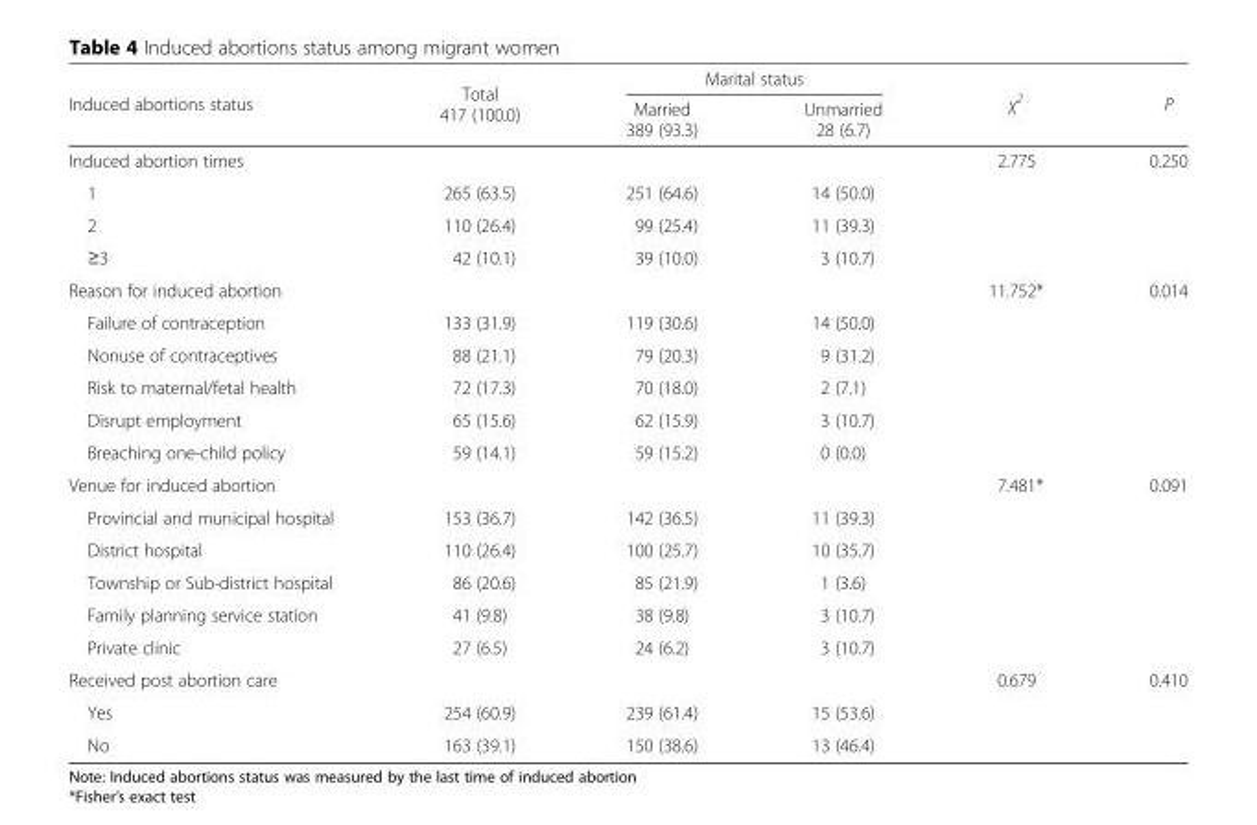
<table><thead><tr><td rowspan="2">Induced abortions status</td><td rowspan="2">Total 417 (100.0)</td><td colspan="2">Marital status</td><td rowspan="2">χ<sup>2</sup></td><td rowspan="2">P</td></tr><tr><td>Married 389 (93.3)</td><td>Unmarried 28 (6.7)</td></tr></thead><tbody><tr><td>Induced abortion times</td><td></td><td></td><td></td><td>2.775</td><td>0.250</td></tr><tr><td>1</td><td>265 (63.5)</td><td>251 (64.6)</td><td>14 (50.0)</td><td></td><td></td></tr><tr><td>2</td><td>110 (26.4)</td><td>99 (25.4)</td><td>11 (39.3)</td><td></td><td></td></tr><tr><td>≥3</td><td>42 (10.1)</td><td>39 (10.0)</td><td>3 (10.7)</td><td></td><td></td></tr><tr><td>Reason for induced abortion</td><td></td><td></td><td></td><td>11.752*</td><td>0.014</td></tr><tr><td>Failure of contraception</td><td>133 (31.9)</td><td>119 (30.6)</td><td>14 (50.0)</td><td></td><td></td></tr><tr><td>Nonuse of contraceptives</td><td>88 (21.1)</td><td>79 (20.3)</td><td>9 (31.2)</td><td></td><td></td></tr><tr><td>Risk to maternal/fetal health</td><td>72 (17.3)</td><td>70 (18.0)</td><td>2 (7.1)</td><td></td><td></td></tr><tr><td>Disrupt employment</td><td>65 (15.6)</td><td>62 (15.9)</td><td>3 (10.7)</td><td></td><td></td></tr><tr><td>Breaching one-child policy</td><td>59 (14.1)</td><td>59 (15.2)</td><td>0 (0.0)</td><td></td><td></td></tr><tr><td>Venue for induced abortion</td><td></td><td></td><td></td><td>7.481*</td><td>0.091</td></tr><tr><td>Provincial and municipal hospital</td><td>153 (36.7)</td><td>142 (36.5)</td><td>11 (39.3)</td><td></td><td></td></tr><tr><td>District hospital</td><td>110 (26.4)</td><td>100 (25.7)</td><td>10 (35.7)</td><td></td><td></td></tr><tr><td>Township or Sub-district hospital</td><td>86 (20.6)</td><td>85 (21.9)</td><td>1 (3.6)</td><td></td><td></td></tr><tr><td>Family planning service station</td><td>41 (9.8)</td><td>38 (9.8)</td><td>3 (10.7)</td><td></td><td></td></tr><tr><td>Private clinic</td><td>27 (6.5)</td><td>24 (6.2)</td><td>3 (10.7)</td><td></td><td></td></tr><tr><td>Received post abortion care</td><td></td><td></td><td></td><td>0.679</td><td>0.410</td></tr><tr><td>Yes</td><td>254 (60.9)</td><td>239 (61.4)</td><td>15 (53.6)</td><td></td><td></td></tr><tr><td>No</td><td>163 (39.1)</td><td>150 (38.6)</td><td>13 (46.4)</td><td></td><td></td></tr></tbody></table>